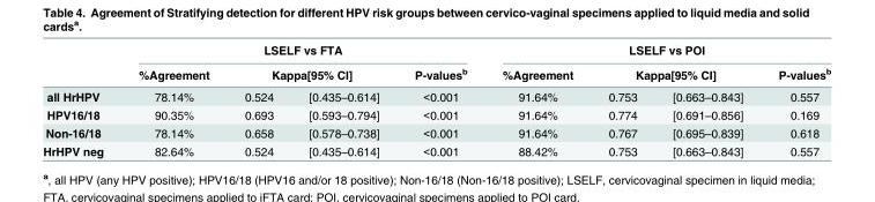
<table><thead><tr><td rowspan="3">all HrHPV</td><td colspan="4">LSELF vs FTA</td><td colspan="4">LSELF vs POI</td></tr><tr><td rowspan="2">%Agreement 78.14%</td><td colspan="2">Kappa[95% CI]</td><td rowspan="2">P-values<sup>b</sup> &lt;0.001</td><td rowspan="2">%Agreement 91.64%</td><td colspan="2">Kappa[95% CI]</td><td rowspan="2">P-values<sup>b</sup> 0.557</td></tr><tr><td>0.524</td><td>[0.435–0.614]</td><td>0.753</td><td>[0.663–0.843]</td></tr></thead><tbody><tr><td>HPV16/18</td><td>90.35%</td><td>0.693</td><td>[0.593–0.794]</td><td>&lt;0.001</td><td>91.64%</td><td>0.774</td><td>[0.691–0.856]</td><td>0.169</td></tr><tr><td>Non-16/18</td><td>78.14%</td><td>0.658</td><td>[0.578–0.738]</td><td>&lt;0.001</td><td>91.64%</td><td>0.767</td><td>[0.695–0.839]</td><td>0.618</td></tr><tr><td>HrHPV neg</td><td>82.64%</td><td>0.524</td><td>[0.435–0.614]</td><td>&lt;0.001</td><td>88.42%</td><td>0.753</td><td>[0.663–0.843]</td><td>0.557</td></tr></tbody></table>